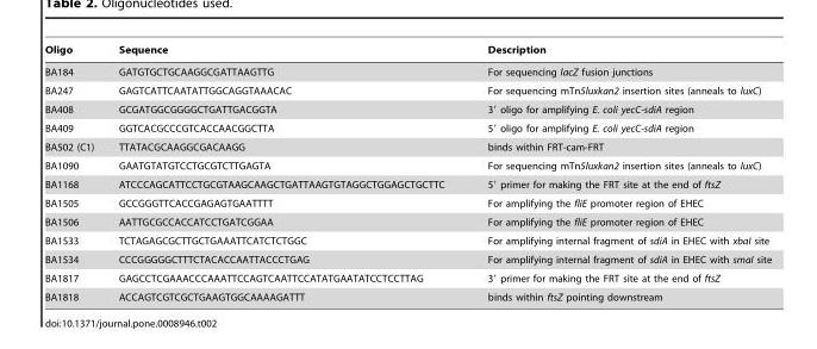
<table><thead><tr><td>Oligo</td><td>Sequence</td><td>Description</td></tr></thead><tbody><tr><td>BA184</td><td>GATGTGCTGCAAGGCGATTAAGTTG</td><td>For sequencing lacZ fusion junctions</td></tr><tr><td>BA247</td><td>GAGTCATTCAATATTGGCAGGTAAACAC</td><td>For sequencing mTn5luxkan2 insertion sites (anneals to luxC)</td></tr><tr><td>BA408</td><td>GCGATGGCGGGGCTGATTGACGGTA</td><td>3′ oligo for amplifying E. coli yecC-sdiA region</td></tr><tr><td>BA409</td><td>GGTCACGCCCGTCACCAACGGCTTA</td><td>5′ oligo for amplifying E. coli yecC-sdiA region</td></tr><tr><td>BA502 (C1)</td><td>TTATACGCAAGGCGACAAGG</td><td>binds within FRT-cam-FRT</td></tr><tr><td>BA1090</td><td>GAATGTATGTCCTGCGTCTTGAGTA</td><td>For sequencing mTn5luxkan2 insertion sites (anneals to luxC)</td></tr><tr><td>BA1168</td><td>ATCCCAGCATTCCTGCGTAAGCAAGCTGATTAAGTGTAGGCTGGAGCTGCTTC</td><td>5′ primer for making the FRT site at the end of ftsZ</td></tr><tr><td>BA1505</td><td>GCCGGGTTCACCGAGAGTGAATTTT</td><td>For amplifying the fliE promoter region of EHEC</td></tr><tr><td>BA1506</td><td>AATTGCGCCACCATCCTGATCGGAA</td><td>For amplifying the fliE promoter region of EHEC</td></tr><tr><td>BA1533</td><td>TCTAGAGCGCTTGCTGAAATTCATCTCTGGC</td><td>For amplifying internal fragment of sdiA in EHEC with xbaI site</td></tr><tr><td>BA1534</td><td>CCCGGGGGCTTTCTACACCAATTACCCTGAG</td><td>For amplifying internal fragment of sdiA in EHEC with smaI site</td></tr><tr><td>BA1817</td><td>GAGCCTCGAAACCCAAATTCCAGTCAATTCCATATGAATATCCTCCTTAG</td><td>3′ primer for making the FRT site at the end of ftsZ</td></tr><tr><td>BA1818</td><td>ACCAGTCGTCGCTGAAGTGGCAAAAGATTT</td><td>binds within ftsZ pointing downstream</td></tr></tbody></table>